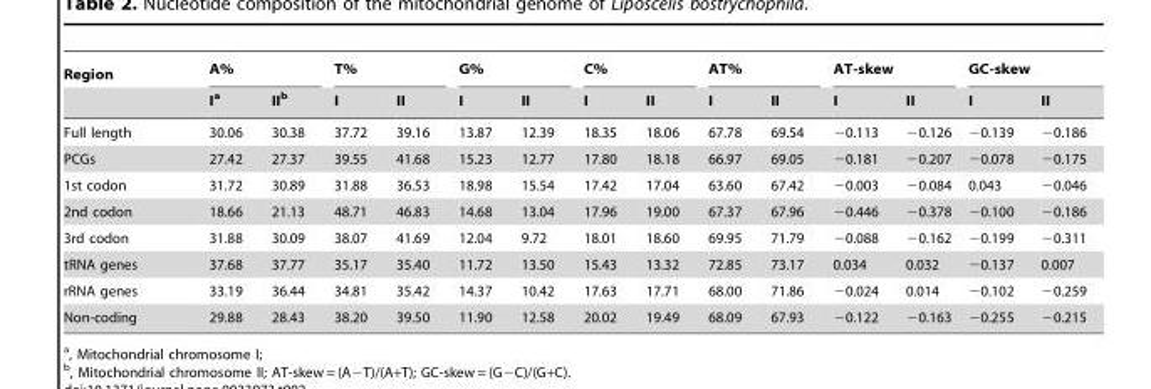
<table><thead><tr><td rowspan="2">Region</td><td colspan="2">A%</td><td colspan="2">T%</td><td colspan="2">G%</td><td colspan="2">C%</td><td colspan="2">AT%</td><td colspan="2">AT-skew</td><td colspan="2">GC-skew</td></tr><tr><td>I<sup>a</sup></td><td>II<sup>b</sup></td><td>I</td><td>II</td><td>I</td><td>II</td><td>I</td><td>II</td><td>I</td><td>II</td><td>I</td><td>II</td><td>I</td><td>II</td></tr></thead><tbody><tr><td>Full length</td><td>30.06</td><td>30.38</td><td>37.72</td><td>39.16</td><td>13.87</td><td>12.39</td><td>18.35</td><td>18.06</td><td>67.78</td><td>69.54</td><td>−0.113</td><td>−0.126</td><td>−0.139</td><td>−0.186</td></tr><tr><td>PCGs</td><td>27.42</td><td>27.37</td><td>39.55</td><td>41.68</td><td>15.23</td><td>12.77</td><td>17.80</td><td>18.18</td><td>66.97</td><td>69.05</td><td>−0.181</td><td>−0.207</td><td>−0.078</td><td>−0.175</td></tr><tr><td>1st codon</td><td>31.72</td><td>30.89</td><td>31.88</td><td>36.53</td><td>18.98</td><td>15.54</td><td>17.42</td><td>17.04</td><td>63.60</td><td>67.42</td><td>−0.003</td><td>−0.084</td><td>0.043</td><td>−0.046</td></tr><tr><td>2nd codon</td><td>18.66</td><td>21.13</td><td>48.71</td><td>46.83</td><td>14.68</td><td>13.04</td><td>17.96</td><td>19.00</td><td>67.37</td><td>67.96</td><td>−0.446</td><td>−0.378</td><td>−0.100</td><td>−0.186</td></tr><tr><td>3rd codon</td><td>31.88</td><td>30.09</td><td>38.07</td><td>41.69</td><td>12.04</td><td>9.72</td><td>18.01</td><td>18.60</td><td>69.95</td><td>71.79</td><td>−0.088</td><td>−0.162</td><td>−0.199</td><td>−0.311</td></tr><tr><td>tRNA genes</td><td>37.68</td><td>37.77</td><td>35.17</td><td>35.40</td><td>11.72</td><td>13.50</td><td>15.43</td><td>13.32</td><td>72.85</td><td>73.17</td><td>0.034</td><td>0.032</td><td>−0.137</td><td>0.007</td></tr><tr><td>rRNA genes</td><td>33.19</td><td>36.44</td><td>34.81</td><td>35.42</td><td>14.37</td><td>10.42</td><td>17.63</td><td>17.71</td><td>68.00</td><td>71.86</td><td>−0.024</td><td>0.014</td><td>−0.102</td><td>−0.259</td></tr><tr><td>Non-coding</td><td>29.88</td><td>28.43</td><td>38.20</td><td>39.50</td><td>11.90</td><td>12.58</td><td>20.02</td><td>19.49</td><td>68.09</td><td>67.93</td><td>−0.122</td><td>−0.163</td><td>−0.255</td><td>−0.215</td></tr></tbody></table>